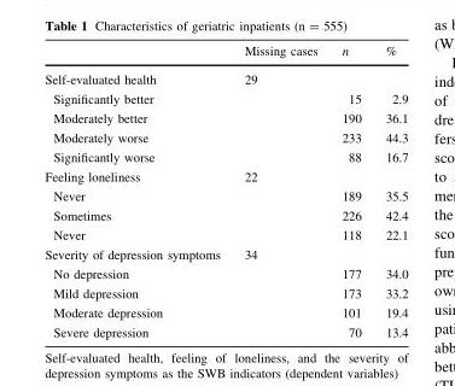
<table><thead><tr><td></td><td>Missing cases</td><td>n</td><td>%</td></tr></thead><tbody><tr><td>Self-evaluated health</td><td>29</td><td></td><td></td></tr><tr><td>Significantly better</td><td></td><td>15</td><td>2.9</td></tr><tr><td>Moderately better</td><td></td><td>190</td><td>36.1</td></tr><tr><td>Moderately worse</td><td></td><td>233</td><td>44.3</td></tr><tr><td>Significantly worse</td><td></td><td>88</td><td>16.7</td></tr><tr><td>Feeling loneliness</td><td>22</td><td></td><td></td></tr><tr><td>Never</td><td></td><td>189</td><td>35.5</td></tr><tr><td>Sometimes</td><td></td><td>226</td><td>42.4</td></tr><tr><td>Never</td><td></td><td>118</td><td>22.1</td></tr><tr><td>Severity of depression symptoms</td><td>34</td><td></td><td></td></tr><tr><td>No depression</td><td></td><td>177</td><td>34.0</td></tr><tr><td>Mild depression</td><td></td><td>173</td><td>33.2</td></tr><tr><td>Moderate depression</td><td></td><td>101</td><td>19.4</td></tr><tr><td>Severe depression</td><td></td><td>70</td><td>13.4</td></tr></tbody></table>